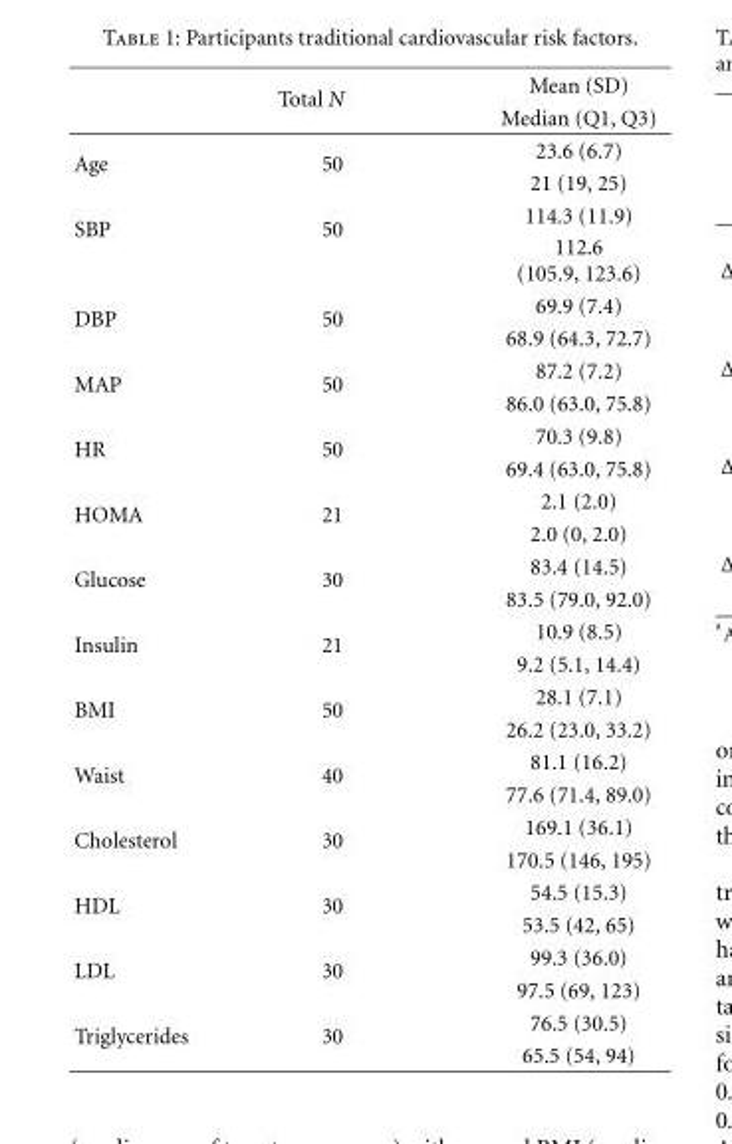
<table><thead><tr><td rowspan="2"></td><td rowspan="2">Total N</td><td rowspan="2">Mean (SD) Median (Q1, Q3)</td></tr><tr></tr></thead><tbody><tr><td rowspan="2">Age</td><td rowspan="2">50</td><td>23.6 (6.7)</td></tr><tr><td>21 (19, 25)</td></tr><tr><td rowspan="2">SBP</td><td rowspan="2">50</td><td>114.3 (11.9)</td></tr><tr><td>112.6 (105.9, 123.6)</td></tr><tr><td rowspan="2">DBP</td><td rowspan="2">50</td><td>69.9 (7.4)</td></tr><tr><td>68.9 (64.3, 72.7)</td></tr><tr><td rowspan="2">MAP</td><td rowspan="2">50</td><td>87.2 (7.2)</td></tr><tr><td>86.0 (63.0, 75.8)</td></tr><tr><td rowspan="2">HR</td><td rowspan="2">50</td><td>70.3 (9.8)</td></tr><tr><td>69.4 (63.0, 75.8)</td></tr><tr><td rowspan="2">HOMA</td><td rowspan="2">21</td><td>2.1 (2.0)</td></tr><tr><td>2.0 (0, 2.0)</td></tr><tr><td rowspan="2">Glucose</td><td rowspan="2">30</td><td>83.4 (14.5)</td></tr><tr><td>83.5 (79.0, 92.0)</td></tr><tr><td rowspan="2">Insulin</td><td rowspan="2">21</td><td>10.9 (8.5)</td></tr><tr><td>9.2 (5.1, 14.4)</td></tr><tr><td rowspan="2">BMI</td><td rowspan="2">50</td><td>28.1 (7.1)</td></tr><tr><td>26.2 (23.0, 33.2)</td></tr><tr><td rowspan="2">Waist</td><td rowspan="2">40</td><td>81.1 (16.2)</td></tr><tr><td>77.6 (71.4, 89.0)</td></tr><tr><td rowspan="2">Cholesterol</td><td rowspan="2">30</td><td>169.1 (36.1)</td></tr><tr><td>170.5 (146, 195)</td></tr><tr><td rowspan="2">HDL</td><td rowspan="2">30</td><td>54.5 (15.3)</td></tr><tr><td>53.5 (42, 65)</td></tr><tr><td rowspan="2">LDL</td><td rowspan="2">30</td><td>99.3 (36.0)</td></tr><tr><td>97.5 (69, 123)</td></tr><tr><td rowspan="2">Triglycerides</td><td rowspan="2">30</td><td>76.5 (30.5)</td></tr><tr><td>65.5 (54, 94)</td></tr></tbody></table>